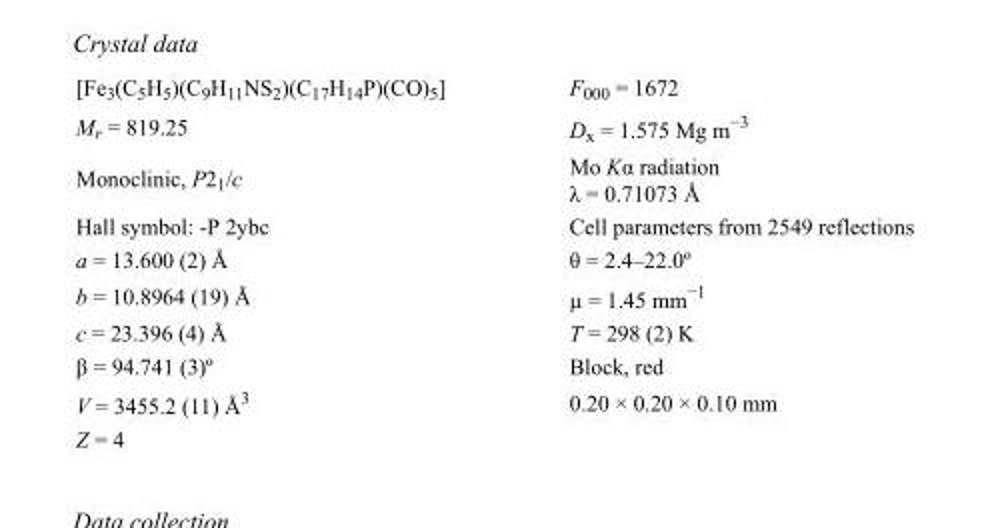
<table><tbody><tr><td>[Fe<sub>3</sub>(C<sub>5</sub>H<sub>5</sub>)(C<sub>9</sub>H<sub>11</sub>NS<sub>2</sub>)(C<sub>17</sub>H<sub>14</sub>P)(CO)<sub>5</sub>]</td><td>F000 = 1672</td></tr><tr><td>M<sub>r</sub> = 819.25</td><td>D<sub>x</sub> = 1.575 Mg m<sup>−3</sup></td></tr><tr><td>Monoclinic, P2<sub>1</sub>/c</td><td>Mo Kα radiation λ = 0.71073 Å</td></tr><tr><td>Hall symbol: -P 2ybc</td><td>Cell parameters from 2549 reflections</td></tr><tr><td>a = 13.600 (2) Å</td><td>θ = 2.4–22.0º</td></tr><tr><td>b = 10.8964 (19) Å</td><td>µ = 1.45 mm<sup>−1</sup></td></tr><tr><td>c = 23.396 (4) Å</td><td>T = 298 (2) K</td></tr><tr><td>β = 94.741 (3)º</td><td>Block, red</td></tr><tr><td>V = 3455.2 (11) Å<sup>3</sup></td><td>0.20 × 0.20 × 0.10 mm</td></tr><tr><td>Z = 4</td><td></td></tr></tbody></table>